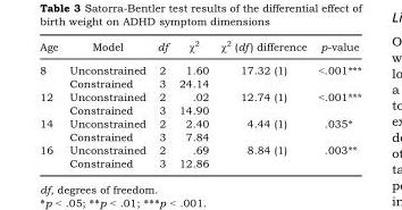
<table><thead><tr><td>Age</td><td>Model</td><td>df</td><td>χ<sup>2</sup></td><td>χ<sup>2</sup> (df ) difference</td><td>p-value</td></tr></thead><tbody><tr><td rowspan="2">8</td><td>Unconstrained</td><td>2</td><td>1.60</td><td rowspan="2">17.32 (1)</td><td rowspan="2">&lt;.001***</td></tr><tr><td>Constrained</td><td>3</td><td>24.14</td></tr><tr><td rowspan="2">12</td><td>Unconstrained</td><td>2</td><td>.02</td><td rowspan="2">12.74 (1)</td><td rowspan="2">&lt;.001***</td></tr><tr><td>Constrained</td><td>3</td><td>14.90</td></tr><tr><td rowspan="2">14</td><td>Unconstrained</td><td>2</td><td>2.40</td><td rowspan="2">4.44 (1)</td><td rowspan="2">.035*</td></tr><tr><td>Constrained</td><td>3</td><td>7.84</td></tr><tr><td rowspan="2">16</td><td>Unconstrained</td><td>2</td><td>.69</td><td rowspan="2">8.84 (1)</td><td rowspan="2">.003**</td></tr><tr><td>Constrained</td><td>3</td><td>12.86</td></tr></tbody></table>